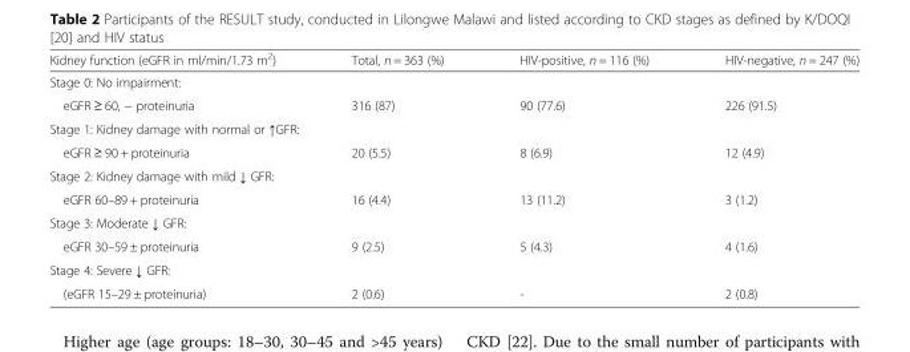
<table><thead><tr><td>Kidney function (eGFR in ml/min/1.73 m<sup>2</sup>)</td><td>Total, n = 363 (%)</td><td>HIV-positive, n = 116 (%)</td><td>HIV-negative, n = 247 (%)</td></tr></thead><tbody><tr><td colspan="4">Stage 0: No impairment:</td></tr><tr><td>eGFR ≥ 60, − proteinuria</td><td>316 (87)</td><td>90 (77.6)</td><td>226 (91.5)</td></tr><tr><td colspan="4">Stage 1: Kidney damage with normal or ↑GFR:</td></tr><tr><td>eGFR ≥ 90 + proteinuria</td><td>20 (5.5)</td><td>8 (6.9)</td><td>12 (4.9)</td></tr><tr><td colspan="4">Stage 2: Kidney damage with mild ↓ GFR:</td></tr><tr><td>eGFR 60–89 + proteinuria</td><td>16 (4.4)</td><td>13 (11.2)</td><td>3 (1.2)</td></tr><tr><td colspan="4">Stage 3: Moderate ↓ GFR:</td></tr><tr><td>eGFR 30–59 ± proteinuria</td><td>9 (2.5)</td><td>5 (4.3)</td><td>4 (1.6)</td></tr><tr><td colspan="4">Stage 4: Severe ↓ GFR:</td></tr><tr><td>(eGFR 15–29 ± proteinuria)</td><td>2 (0.6)</td><td>-</td><td>2 (0.8)</td></tr></tbody></table>